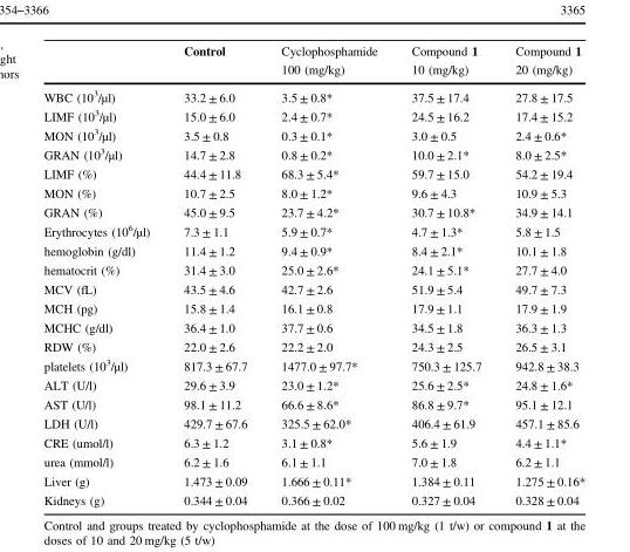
<table><thead><tr><td rowspan="2"></td><td rowspan="2">Control</td><td rowspan="2">Cyclophosphamide 100 (mg/kg)</td><td rowspan="2">Compound 1 10 (mg/kg)</td><td rowspan="2">Compound 1 20 (mg/kg)</td></tr><tr></tr></thead><tbody><tr><td>WBC (10<sup>3</sup>/µl)</td><td>33.2 ± 6.0</td><td>3.5 ± 0.8*</td><td>37.5 ± 17.4</td><td>27.8 ± 17.5</td></tr><tr><td>LIMF (10<sup>3</sup>/µl)</td><td>15.0 ± 6.0</td><td>2.4 ± 0.7*</td><td>24.5 ± 16.2</td><td>17.4 ± 15.2</td></tr><tr><td>MON (10<sup>3</sup>/µl)</td><td>3.5 ± 0.8</td><td>0.3 ± 0.1*</td><td>3.0 ± 0.5</td><td>2.4 ± 0.6*</td></tr><tr><td>GRAN (10<sup>3</sup>/µl)</td><td>14.7 ± 2.8</td><td>0.8 ± 0.2*</td><td>10.0 ± 2.1*</td><td>8.0 ± 2.5*</td></tr><tr><td>LIMF (%)</td><td>44.4 ± 11.8</td><td>68.3 ± 5.4*</td><td>59.7 ± 15.0</td><td>54.2 ± 19.4</td></tr><tr><td>MON (%)</td><td>10.7 ± 2.5</td><td>8.0 ± 1.2*</td><td>9.6 ± 4.3</td><td>10.9 ± 5.3</td></tr><tr><td>GRAN (%)</td><td>45.0 ± 9.5</td><td>23.7 ± 4.2*</td><td>30.7 ± 10.8*</td><td>34.9 ± 14.1</td></tr><tr><td>Erythrocytes (10<sup>6</sup>/µl)</td><td>7.3 ± 1.1</td><td>5.9 ± 0.7*</td><td>4.7 ± 1.3*</td><td>5.8 ± 1.5</td></tr><tr><td>hemoglobin (g/dl)</td><td>11.4 ± 1.2</td><td>9.4 ± 0.9*</td><td>8.4 ± 2.1*</td><td>10.1 ± 1.8</td></tr><tr><td>hematocrit (%)</td><td>31.4 ± 3.0</td><td>25.0 ± 2.6*</td><td>24.1 ± 5.1*</td><td>27.7 ± 4.0</td></tr><tr><td>MCV (fL)</td><td>43.5 ± 4.6</td><td>42.7 ± 2.6</td><td>51.9 ± 5.4</td><td>49.7 ± 7.3</td></tr><tr><td>MCH (pg)</td><td>15.8 ± 1.4</td><td>16.1 ± 0.8</td><td>17.9 ± 1.1</td><td>17.9 ± 1.9</td></tr><tr><td>MCHC (g/dl)</td><td>36.4 ± 1.0</td><td>37.7 ± 0.6</td><td>34.5 ± 1.8</td><td>36.3 ± 1.3</td></tr><tr><td>RDW (%)</td><td>22.0 ± 2.6</td><td>22.2 ± 2.0</td><td>24.3 ± 2.5</td><td>26.5 ± 3.1</td></tr><tr><td>platelets (10<sup>3</sup>/µl)</td><td>817.3 ± 67.7</td><td>1477.0 ± 97.7*</td><td>750.3 ± 125.7</td><td>942.8 ± 38.3</td></tr><tr><td>ALT (U/l)</td><td>29.6 ± 3.9</td><td>23.0 ± 1.2*</td><td>25.6 ± 2.5*</td><td>24.8 ± 1.6*</td></tr><tr><td>AST (U/l)</td><td>98.1 ± 11.2</td><td>66.6 ± 8.6*</td><td>86.8 ± 9.7*</td><td>95.1 ± 12.1</td></tr><tr><td>LDH (U/l)</td><td>429.7 ± 67.6</td><td>325.5 ± 62.0*</td><td>406.4 ± 61.9</td><td>457.1 ± 85.6</td></tr><tr><td>CRE (umol/l)</td><td>6.3 ± 1.2</td><td>3.1 ± 0.8*</td><td>5.6 ± 1.9</td><td>4.4 ± 1.1*</td></tr><tr><td>urea (mmol/l)</td><td>6.2 ± 1.6</td><td>6.1 ± 1.1</td><td>7.0 ± 1.8</td><td>6.2 ± 1.1</td></tr><tr><td>Liver (g)</td><td>1.473 ± 0.09</td><td>1.666 ± 0.11*</td><td>1.384 ± 0.11</td><td>1.275 ± 0.16*</td></tr><tr><td>Kidneys (g)</td><td>0.344 ± 0.04</td><td>0.366 ± 0.02</td><td>0.327 ± 0.04</td><td>0.328 ± 0.04</td></tr></tbody></table>